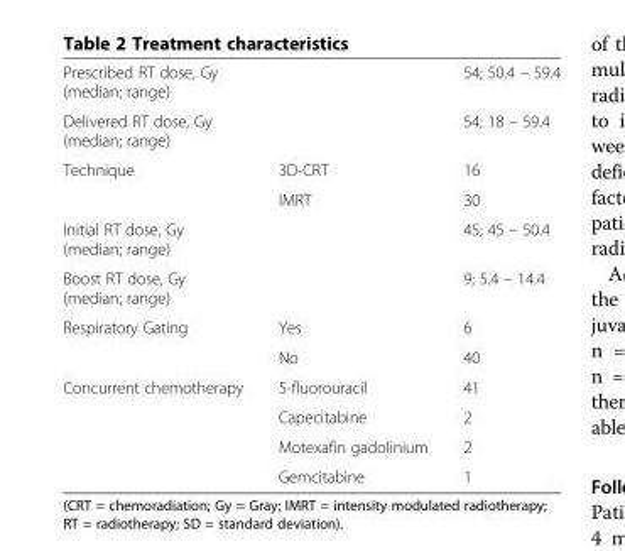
<table><tbody><tr><td>Prescribed RT dose, Gy (median; range)</td><td></td><td>54; 50.4 – 59.4</td></tr><tr><td>Delivered RT dose, Gy (median; range)</td><td></td><td>54; 18 – 59.4</td></tr><tr><td rowspan="2">Technique</td><td>3D-CRT</td><td>16</td></tr><tr><td>IMRT</td><td>30</td></tr><tr><td>Initial RT dose, Gy (median; range)</td><td></td><td>45; 45 – 50.4</td></tr><tr><td>Boost RT dose, Gy (median; range)</td><td></td><td>9; 5.4 – 14.4</td></tr><tr><td rowspan="2">Respiratory Gating</td><td>Yes</td><td>6</td></tr><tr><td>No</td><td>40</td></tr><tr><td rowspan="4">Concurrent chemotherapy</td><td>5-fluorouracil</td><td>41</td></tr><tr><td>Capecitabine</td><td>2</td></tr><tr><td>Motexafin gadolinium</td><td>2</td></tr><tr><td>Gemcitabine</td><td>1</td></tr></tbody></table>